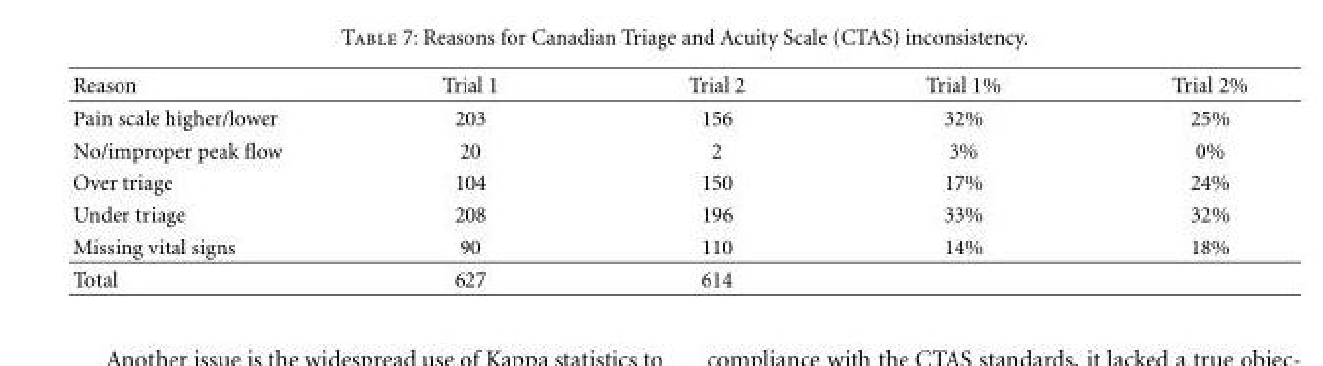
<table><thead><tr><td>Reason</td><td>Trial 1</td><td>Trial 2</td><td>Trial 1%</td><td>Trial 2%</td></tr></thead><tbody><tr><td>Pain scale higher/lower</td><td>203</td><td>156</td><td>32%</td><td>25%</td></tr><tr><td>No/improper peak flow</td><td>20</td><td>2</td><td>3%</td><td>0%</td></tr><tr><td>Over triage</td><td>104</td><td>150</td><td>17%</td><td>24%</td></tr><tr><td>Under triage</td><td>208</td><td>196</td><td>33%</td><td>32%</td></tr><tr><td>Missing vital signs</td><td>90</td><td>110</td><td>14%</td><td>18%</td></tr><tr><td>Total</td><td>627</td><td>614</td><td></td><td></td></tr></tbody></table>